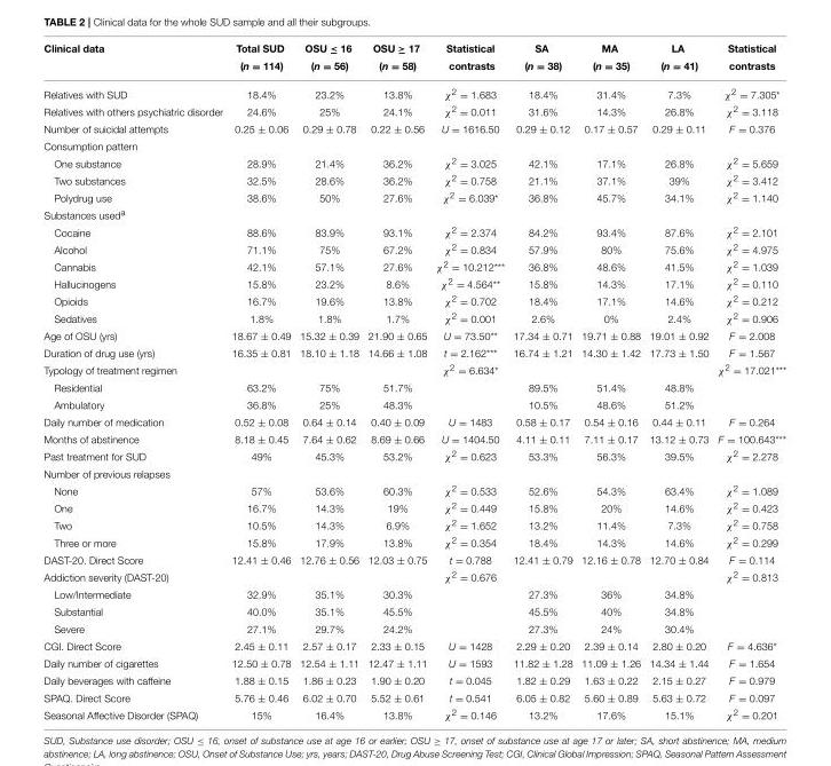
<table><thead><tr><td>Clinical data</td><td>Total SUD (n = 114)</td><td>OSU ≤ 16 (n = 56)</td><td>OSU ≥ 17 (n = 58)</td><td>Statistical contrasts</td><td>SA (n = 38)</td><td>MA (n = 35)</td><td>LA (n = 41)</td><td>Statistical contrasts</td></tr></thead><tbody><tr><td>Relatives with SUD</td><td>18.4%</td><td>23.2%</td><td>13.8%</td><td>χ<sup>2</sup> = 1.683</td><td>18.4%</td><td>31.4%</td><td>7.3%</td><td>χ<sup>2</sup> = 7.305*</td></tr><tr><td>Relatives with others psychiatric disorder</td><td>24.6%</td><td>25%</td><td>24.1%</td><td>χ<sup>2</sup> = 0.011</td><td>31.6%</td><td>14.3%</td><td>26.8%</td><td>χ<sup>2</sup> = 3.118</td></tr><tr><td>Number of suicidal attempts</td><td>0.25 ± 0.06</td><td>0.29 ± 0.78</td><td>0.22 ± 0.56</td><td>U = 1616.50</td><td>0.29 ± 0.12</td><td>0.17 ± 0.57</td><td>0.29 ± 0.11</td><td>F = 0.376</td></tr><tr><td colspan="9">Consumption pattern</td></tr><tr><td>One substance</td><td>28.9%</td><td>21.4%</td><td>36.2%</td><td>χ<sup>2</sup> = 3.025</td><td>42.1%</td><td>17.1%</td><td>26.8%</td><td>χ<sup>2</sup> = 5.659</td></tr><tr><td>Two substances</td><td>32.5%</td><td>28.6%</td><td>36.2%</td><td>χ<sup>2</sup> = 0.758</td><td>21.1%</td><td>37.1%</td><td>39%</td><td>χ<sup>2</sup> = 3.412</td></tr><tr><td>Polydrug use</td><td>38.6%</td><td>50%</td><td>27.6%</td><td>χ<sup>2</sup> = 6.039*</td><td>36.8%</td><td>45.7%</td><td>34.1%</td><td>χ<sup>2</sup> = 1.140</td></tr><tr><td colspan="9">Substances used<sup>a</sup></td></tr><tr><td>Cocaine</td><td>88.6%</td><td>83.9%</td><td>93.1%</td><td>χ<sup>2</sup> = 2.374</td><td>84.2%</td><td>93.4%</td><td>87.6%</td><td>χ<sup>2</sup> = 2.101</td></tr><tr><td>Alcohol</td><td>71.1%</td><td>75%</td><td>67.2%</td><td>χ<sup>2</sup> = 0.834</td><td>57.9%</td><td>80%</td><td>75.6%</td><td>χ<sup>2</sup> = 4.975</td></tr><tr><td>Cannabis</td><td>42.1%</td><td>57.1%</td><td>27.6%</td><td>χ<sup>2</sup> = 10.212***</td><td>36.8%</td><td>48.6%</td><td>41.5%</td><td>χ<sup>2</sup> = 1.039</td></tr><tr><td>Hallucinogens</td><td>15.8%</td><td>23.2%</td><td>8.6%</td><td>χ<sup>2</sup> = 4.564**</td><td>15.8%</td><td>14.3%</td><td>17.1%</td><td>χ<sup>2</sup> = 0.110</td></tr><tr><td>Opioids</td><td>16.7%</td><td>19.6%</td><td>13.8%</td><td>χ<sup>2</sup> = 0.702</td><td>18.4%</td><td>17.1%</td><td>14.6%</td><td>χ<sup>2</sup> = 0.212</td></tr><tr><td>Sedatives</td><td>1.8%</td><td>1.8%</td><td>1.7%</td><td>χ<sup>2</sup> = 0.001</td><td>2.6%</td><td>0%</td><td>2.4%</td><td>χ<sup>2</sup> = 0.906</td></tr><tr><td>Age of OSU (yrs)</td><td>18.67 ± 0.49</td><td>15.32 ± 0.39</td><td>21.90 ± 0.65</td><td>U = 73.50**</td><td>17.34 ± 0.71</td><td>19.71 ± 0.88</td><td>19.01 ± 0.92</td><td>F = 2.008</td></tr><tr><td>Duration of drug use (yrs)</td><td>16.35 ± 0.81</td><td>18.10 ± 1.18</td><td>14.66 ± 1.08</td><td>t = 2.162***</td><td>16.74 ± 1.21</td><td>14.30 ± 1.42</td><td>17.73 ± 1.50</td><td>F = 1.567</td></tr><tr><td>Typology of treatment regimen</td><td></td><td></td><td></td><td>χ<sup>2</sup> = 6.634*</td><td></td><td></td><td></td><td>χ<sup>2</sup> = 17.021***</td></tr><tr><td>Residential</td><td>63.2%</td><td>75%</td><td>51.7%</td><td></td><td>89.5%</td><td>51.4%</td><td>48.8%</td><td></td></tr><tr><td>Ambulatory</td><td>36.8%</td><td>25%</td><td>48.3%</td><td></td><td>10.5%</td><td>48.6%</td><td>51.2%</td><td></td></tr><tr><td>Daily number of medication</td><td>0.52 ± 0.08</td><td>0.64 ± 0.14</td><td>0.40 ± 0.09</td><td>U = 1483</td><td>0.58 ± 0.17</td><td>0.54 ± 0.16</td><td>0.44 ± 0.11</td><td>F = 0.264</td></tr><tr><td>Months of abstinence</td><td>8.18 ± 0.45</td><td>7.64 ± 0.62</td><td>8.69 ± 0.66</td><td>U = 1404.50</td><td>4.11 ± 0.11</td><td>7.11 ± 0.17</td><td>13.12 ± 0.73</td><td>F = 100.643***</td></tr><tr><td>Past treatment for SUD</td><td>49%</td><td>45.3%</td><td>53.2%</td><td>χ<sup>2</sup> = 0.623</td><td>53.3%</td><td>56.3%</td><td>39.5%</td><td>χ<sup>2</sup> = 2.278</td></tr><tr><td colspan="9">Number of previous relapses</td></tr><tr><td>None</td><td>57%</td><td>53.6%</td><td>60.3%</td><td>χ<sup>2</sup> = 0.533</td><td>52.6%</td><td>54.3%</td><td>63.4%</td><td>χ<sup>2</sup> = 1.089</td></tr><tr><td>One</td><td>16.7%</td><td>14.3%</td><td>19%</td><td>χ<sup>2</sup> = 0.449</td><td>15.8%</td><td>20%</td><td>14.6%</td><td>χ<sup>2</sup> = 0.423</td></tr><tr><td>Two</td><td>10.5%</td><td>14.3%</td><td>6.9%</td><td>χ<sup>2</sup> = 1.652</td><td>13.2%</td><td>11.4%</td><td>7.3%</td><td>χ<sup>2</sup> = 0.758</td></tr><tr><td>Three or more</td><td>15.8%</td><td>17.9%</td><td>13.8%</td><td>χ<sup>2</sup> = 0.354</td><td>18.4%</td><td>14.3%</td><td>14.6%</td><td>χ<sup>2</sup> = 0.299</td></tr><tr><td>DAST-20. Direct Score</td><td>12.41 ± 0.46</td><td>12.76 ± 0.56</td><td>12.03 ± 0.75</td><td>t = 0.788</td><td>12.41 ± 0.79</td><td>12.16 ± 0.78</td><td>12.70 ± 0.84</td><td>F = 0.114</td></tr><tr><td>Addiction severity (DAST-20)</td><td></td><td></td><td></td><td>χ<sup>2</sup> = 0.676</td><td></td><td></td><td></td><td>χ<sup>2</sup> = 0.813</td></tr><tr><td>Low/Intermediate</td><td>32.9%</td><td>35.1%</td><td>30.3%</td><td></td><td>27.3%</td><td>36%</td><td>34.8%</td><td></td></tr><tr><td>Substantial</td><td>40.0%</td><td>35.1%</td><td>45.5%</td><td></td><td>45.5%</td><td>40%</td><td>34.8%</td><td></td></tr><tr><td>Severe</td><td>27.1%</td><td>29.7%</td><td>24.2%</td><td></td><td>27.3%</td><td>24%</td><td>30.4%</td><td></td></tr><tr><td>CGI. Direct Score</td><td>2.45 ± 0.11</td><td>2.57 ± 0.17</td><td>2.33 ± 0.15</td><td>U = 1428</td><td>2.29 ± 0.20</td><td>2.39 ± 0.14</td><td>2.80 ± 0.20</td><td>F = 4.636*</td></tr><tr><td>Daily number of cigarettes</td><td>12.50 ± 0.78</td><td>12.54 ± 1.11</td><td>12.47 ± 1.11</td><td>U = 1593</td><td>11.82 ± 1.28</td><td>11.09 ± 1.26</td><td>14.34 ± 1.44</td><td>F = 1.654</td></tr><tr><td>Daily beverages with caffeine</td><td>1.88 ± 0.15</td><td>1.86 ± 0.23</td><td>1.90 ± 0.20</td><td>t = 0.045</td><td>1.82 ± 0.29</td><td>1.63 ± 0.22</td><td>2.15 ± 0.27</td><td>F = 0.979</td></tr><tr><td>SPAQ. Direct Score</td><td>5.76 ± 0.46</td><td>6.02 ± 0.70</td><td>5.52 ± 0.61</td><td>t = 0.541</td><td>6.05 ± 0.82</td><td>5.60 ± 0.89</td><td>5.63 ± 0.72</td><td>F = 0.097</td></tr><tr><td>Seasonal Affective Disorder (SPAQ)</td><td>15%</td><td>16.4%</td><td>13.8%</td><td>χ<sup>2</sup> = 0.146</td><td>13.2%</td><td>17.6%</td><td>15.1%</td><td>χ<sup>2</sup> = 0.201</td></tr></tbody></table>